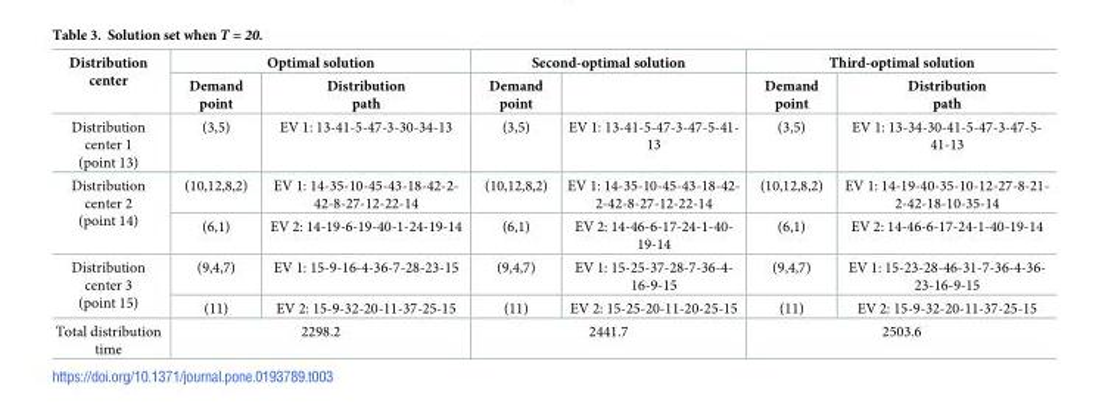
<table><thead><tr><td rowspan="2">Distribution center</td><td colspan="2">Optimal solution</td><td colspan="2">Second-optimal solution</td><td colspan="2">Third-optimal solution</td></tr><tr><td>Demand point</td><td>Distribution path</td><td>Demand point</td><td></td><td>Demand point</td><td>Distribution path</td></tr></thead><tbody><tr><td>Distribution center 1 (point 13)</td><td>(3,5)</td><td>EV 1: 13-41-5-47-3-30-34-13</td><td>(3,5)</td><td>EV 1: 13-41-5-47-3-47-5-41- 13</td><td>(3,5)</td><td>EV 1: 13-34-30-41-5-47-3-47-5- 41-13</td></tr><tr><td rowspan="2">Distribution center 2 (point 14)</td><td>(10,12,8,2)</td><td>EV 1: 14-35-10-45-43-18-42-2- 42-8-27-12-22-14</td><td>(10,12,8,2)</td><td>EV 1: 14-35-10-45-43-18-42- 2-42-8-27-12-22-14</td><td>(10,12,8,2)</td><td>EV 1: 14-19-40-35-10-12-27-8-21- 2-42-18-10-35-14</td></tr><tr><td>(6,1)</td><td>EV 2: 14-19-6-19-40-1-24-19-14</td><td>(6,1)</td><td>EV 2: 14-46-6-17-24-1-40- 19-14</td><td>(6,1)</td><td>EV 2: 14-46-6-17-24-1-40-19-14</td></tr><tr><td rowspan="2">Distribution center 3 (point 15)</td><td>(9,4,7)</td><td>EV 1: 15-9-16-4-36-7-28-23-15</td><td>(9,4,7)</td><td>EV 1: 15-25-37-28-7-36-4- 16-9-15</td><td>(9,4,7)</td><td>EV 1: 15-23-28-46-31-7-36-4-36- 23-16-9-15</td></tr><tr><td>(11)</td><td>EV 2: 15-9-32-20-11-37-25-15</td><td>(11)</td><td>EV 2: 15-25-20-11-20-25-15</td><td>(11)</td><td>EV 2: 15-9-32-20-11-37-25-15</td></tr><tr><td>Total distribution time</td><td colspan="2">2298.2</td><td colspan="2">2441.7</td><td colspan="2">2503.6</td></tr></tbody></table>